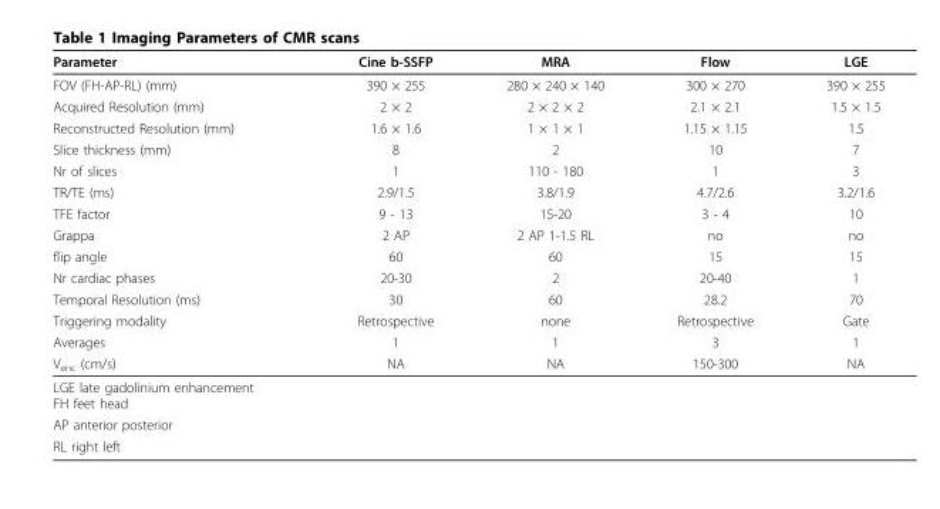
<table><thead><tr><td>Parameter</td><td>Cine b-SSFP</td><td>MRA</td><td>Flow</td><td>LGE</td></tr></thead><tbody><tr><td>FOV (FH-AP-RL) (mm)</td><td>390 × 255</td><td>280 × 240 × 140</td><td>300 × 270</td><td>390 × 255</td></tr><tr><td>Acquired Resolution (mm)</td><td>2 × 2</td><td>2 × 2 × 2</td><td>2.1 × 2.1</td><td>1.5 × 1.5</td></tr><tr><td>Reconstructed Resolution (mm)</td><td>1.6 × 1.6</td><td>1 × 1 × 1</td><td>1.15 × 1.15</td><td>1.5</td></tr><tr><td>Slice thickness (mm)</td><td>8</td><td>2</td><td>10</td><td>7</td></tr><tr><td>Nr of slices</td><td>1</td><td>110 - 180</td><td>1</td><td>3</td></tr><tr><td>TR/TE (ms)</td><td>2.9/1.5</td><td>3.8/1.9</td><td>4.7/2.6</td><td>3.2/1.6</td></tr><tr><td>TFE factor</td><td>9 - 13</td><td>15-20</td><td>3 - 4</td><td>10</td></tr><tr><td>Grappa</td><td>2 AP</td><td>2 AP 1-1.5 RL</td><td>no</td><td>no</td></tr><tr><td>flip angle</td><td>60</td><td>60</td><td>15</td><td>15</td></tr><tr><td>Nr cardiac phases</td><td>20-30</td><td>2</td><td>20-40</td><td>1</td></tr><tr><td>Temporal Resolution (ms)</td><td>30</td><td>60</td><td>28.2</td><td>70</td></tr><tr><td>Triggering modality</td><td>Retrospective</td><td>none</td><td>Retrospective</td><td>Gate</td></tr><tr><td>Averages</td><td>1</td><td>1</td><td>3</td><td>1</td></tr><tr><td>V<sub>enc</sub> (cm/s)</td><td>NA</td><td>NA</td><td>150-300</td><td>NA</td></tr><tr><td colspan="5">LGE late gadolinium enhancement FH feet head</td></tr><tr><td colspan="5">AP anterior posterior</td></tr><tr><td>RL right left</td><td></td><td></td><td></td><td></td></tr></tbody></table>